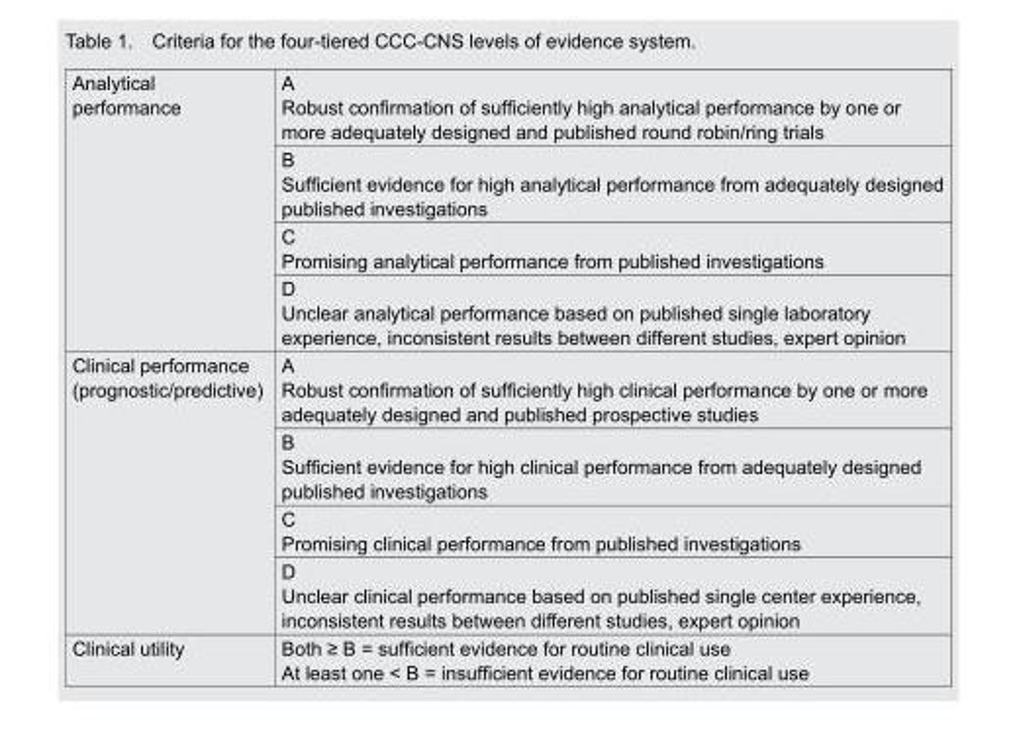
<table><tbody><tr><td rowspan="4">Analytical performance</td><td>A Robust confirmation of sufficiently high analytical performance by one or more adequately designed and published round robin/ring trials</td></tr><tr><td>B Sufficient evidence for high analytical performance from adequately designed published investigations</td></tr><tr><td>C Promising analytical performance from published investigations</td></tr><tr><td>D Unclear analytical performance based on published single laboratory experience, inconsistent results between different studies, expert opinion</td></tr><tr><td rowspan="4">Clinical performance (prognostic/predictive)</td><td>A Robust confirmation of sufficiently high clinical performance by one or more adequately designed and published prospective studies</td></tr><tr><td>B Sufficient evidence for high clinical performance from adequately designed published investigations</td></tr><tr><td>C Promising clinical performance from published investigations</td></tr><tr><td>D Unclear clinical performance based on published single center experience, inconsistent results between different studies, expert opinion</td></tr><tr><td>Clinical utility</td><td>Both ≥ B = sufficient evidence for routine clinical use At least one &lt; B = insufficient evidence for routine clinical use</td></tr></tbody></table>